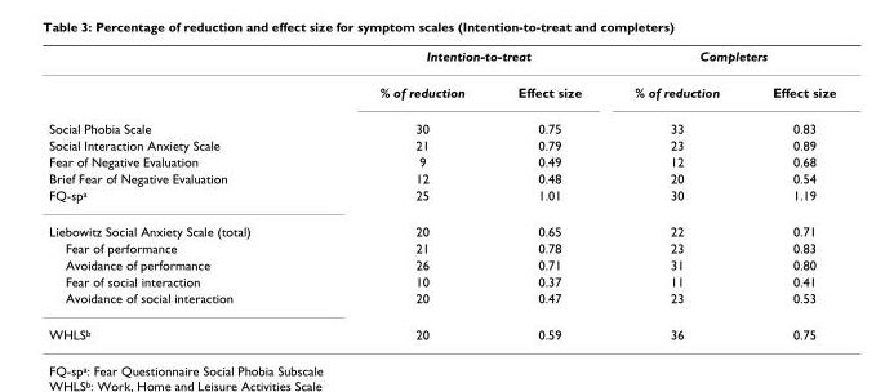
<table><thead><tr><td rowspan="2"></td><td colspan="2">Intention-to-treat</td><td colspan="2">Completers</td></tr><tr><td>% of reduction</td><td>Effect size</td><td>% of reduction</td><td>Effect size</td></tr></thead><tbody><tr><td>Social Phobia Scale</td><td>30</td><td>0.75</td><td>33</td><td>0.83</td></tr><tr><td>Social Interaction Anxiety Scale</td><td>21</td><td>0.79</td><td>23</td><td>0.89</td></tr><tr><td>Fear of Negative Evaluation</td><td>9</td><td>0.49</td><td>12</td><td>0.68</td></tr><tr><td>Brief Fear of Negative Evaluation</td><td>12</td><td>0.48</td><td>20</td><td>0.54</td></tr><tr><td>FQ-sp<sup>a</sup></td><td>25</td><td>1.01</td><td>30</td><td>1.19</td></tr><tr><td>Liebowitz Social Anxiety Scale (total)</td><td>20</td><td>0.65</td><td>22</td><td>0.71</td></tr><tr><td>Fear of performance</td><td>21</td><td>0.78</td><td>23</td><td>0.83</td></tr><tr><td>Avoidance of performance</td><td>26</td><td>0.71</td><td>31</td><td>0.80</td></tr><tr><td>Fear of social interaction</td><td>10</td><td>0.37</td><td>11</td><td>0.41</td></tr><tr><td>Avoidance of social interaction</td><td>20</td><td>0.47</td><td>23</td><td>0.53</td></tr><tr><td>WHLS<sup>b</sup></td><td>20</td><td>0.59</td><td>36</td><td>0.75</td></tr></tbody></table>